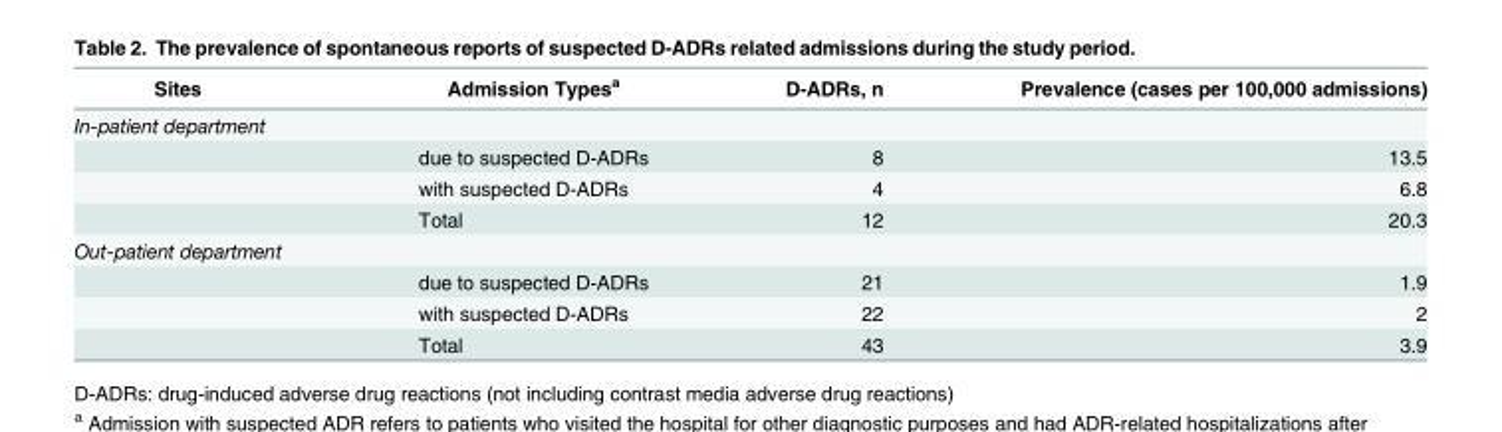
<table><thead><tr><td>Sites</td><td>Admission Types<sup>a</sup></td><td>D-ADRs, n</td><td>Prevalence (cases per 100,000 admissions)</td></tr></thead><tbody><tr><td colspan="4">In-patient department</td></tr><tr><td></td><td>due to suspected D-ADRs</td><td>8</td><td>13.5</td></tr><tr><td></td><td>with suspected D-ADRs</td><td>4</td><td>6.8</td></tr><tr><td></td><td>Total</td><td>12</td><td>20.3</td></tr><tr><td colspan="4">Out-patient department</td></tr><tr><td></td><td>due to suspected D-ADRs</td><td>21</td><td>1.9</td></tr><tr><td></td><td>with suspected D-ADRs</td><td>22</td><td>2</td></tr><tr><td></td><td>Total</td><td>43</td><td>3.9</td></tr></tbody></table>